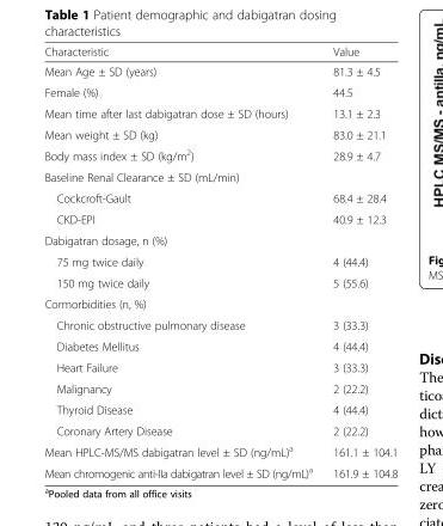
<table><thead><tr><td>Characteristic</td><td>Value</td></tr></thead><tbody><tr><td>Mean Age ± SD (years)</td><td>81.3 ± 4.5</td></tr><tr><td>Female (%)</td><td>44.5</td></tr><tr><td>Mean time after last dabigatran dose ± SD (hours)</td><td>13.1 ± 2.3</td></tr><tr><td>Mean weight ± SD (kg)</td><td>83.0 ± 21.1</td></tr><tr><td>Body mass index ± SD (kg/m<sup>2</sup>)</td><td>28.9 ± 4.7</td></tr><tr><td colspan="2">Baseline Renal Clearance ± SD (mL/min)</td></tr><tr><td>Cockcroft-Gault</td><td>68.4 ± 28.4</td></tr><tr><td>CKD-EPI</td><td>40.9 ± 12.3</td></tr><tr><td colspan="2">Dabigatran dosage, n (%)</td></tr><tr><td>75 mg twice daily</td><td>4 (44.4)</td></tr><tr><td>150 mg twice daily</td><td>5 (55.6)</td></tr><tr><td colspan="2">Cormorbidities (n, %)</td></tr><tr><td>Chronic obstructive pulmonary disease</td><td>3 (33.3)</td></tr><tr><td>Diabetes Mellitus</td><td>4 (44.4)</td></tr><tr><td>Heart Failure</td><td>3 (33.3)</td></tr><tr><td>Malignancy</td><td>2 (22.2)</td></tr><tr><td>Thyroid Disease</td><td>4 (44.4)</td></tr><tr><td>Coronary Artery Disease</td><td>2 (22.2)</td></tr><tr><td>Mean HPLC-MS/MS dabigatran level ± SD (ng/mL)<sup>a</sup></td><td>161.1 ± 104.1</td></tr><tr><td>Mean chromogenic anti-IIa dabigatran level ± SD (ng/mL)<sup>a</sup></td><td>161.9 ± 104.8</td></tr></tbody></table>